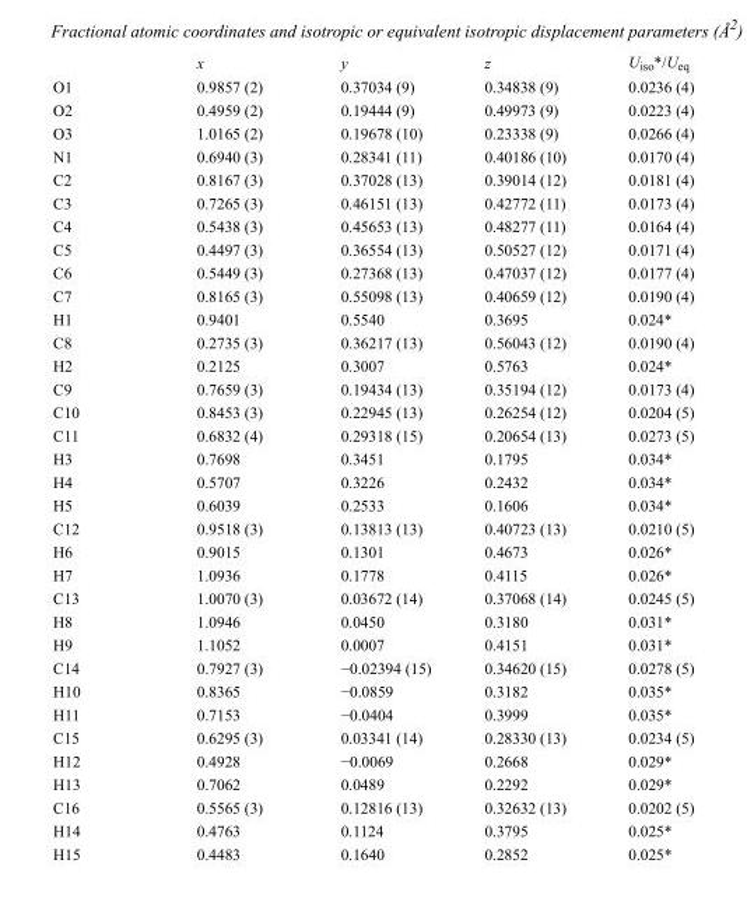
<table><thead><tr><td></td><td>x</td><td>y</td><td>z</td><td>U<sub>iso</sub>*/U<sub>eq</sub></td></tr></thead><tbody><tr><td>O1</td><td>0.9857 (2)</td><td>0.37034 (9)</td><td>0.34838 (9)</td><td>0.0236 (4)</td></tr><tr><td>O2</td><td>0.4959 (2)</td><td>0.19444 (9)</td><td>0.49973 (9)</td><td>0.0223 (4)</td></tr><tr><td>O3</td><td>1.0165 (2)</td><td>0.19678 (10)</td><td>0.23338 (9)</td><td>0.0266 (4)</td></tr><tr><td>N1</td><td>0.6940 (3)</td><td>0.28341 (11)</td><td>0.40186 (10)</td><td>0.0170 (4)</td></tr><tr><td>C2</td><td>0.8167 (3)</td><td>0.37028 (13)</td><td>0.39014 (12)</td><td>0.0181 (4)</td></tr><tr><td>C3</td><td>0.7265 (3)</td><td>0.46151 (13)</td><td>0.42772 (11)</td><td>0.0173 (4)</td></tr><tr><td>C4</td><td>0.5438 (3)</td><td>0.45653 (13)</td><td>0.48277 (11)</td><td>0.0164 (4)</td></tr><tr><td>C5</td><td>0.4497 (3)</td><td>0.36554 (13)</td><td>0.50527 (12)</td><td>0.0171 (4)</td></tr><tr><td>C6</td><td>0.5449 (3)</td><td>0.27368 (13)</td><td>0.47037 (12)</td><td>0.0177 (4)</td></tr><tr><td>C7</td><td>0.8165 (3)</td><td>0.55098 (13)</td><td>0.40659 (12)</td><td>0.0190 (4)</td></tr><tr><td>H1</td><td>0.9401</td><td>0.5540</td><td>0.3695</td><td>0.024*</td></tr><tr><td>C8</td><td>0.2735 (3)</td><td>0.36217 (13)</td><td>0.56043 (12)</td><td>0.0190 (4)</td></tr><tr><td>H2</td><td>0.2125</td><td>0.3007</td><td>0.5763</td><td>0.024*</td></tr><tr><td>C9</td><td>0.7659 (3)</td><td>0.19434 (13)</td><td>0.35194 (12)</td><td>0.0173 (4)</td></tr><tr><td>C10</td><td>0.8453 (3)</td><td>0.22945 (13)</td><td>0.26254 (12)</td><td>0.0204 (5)</td></tr><tr><td>C11</td><td>0.6832 (4)</td><td>0.29318 (15)</td><td>0.20654 (13)</td><td>0.0273 (5)</td></tr><tr><td>H3</td><td>0.7698</td><td>0.3451</td><td>0.1795</td><td>0.034*</td></tr><tr><td>H4</td><td>0.5707</td><td>0.3226</td><td>0.2432</td><td>0.034*</td></tr><tr><td>H5</td><td>0.6039</td><td>0.2533</td><td>0.1606</td><td>0.034*</td></tr><tr><td>C12</td><td>0.9518 (3)</td><td>0.13813 (13)</td><td>0.40723 (13)</td><td>0.0210 (5)</td></tr><tr><td>H6</td><td>0.9015</td><td>0.1301</td><td>0.4673</td><td>0.026*</td></tr><tr><td>H7</td><td>1.0936</td><td>0.1778</td><td>0.4115</td><td>0.026*</td></tr><tr><td>C13</td><td>1.0070 (3)</td><td>0.03672 (14)</td><td>0.37068 (14)</td><td>0.0245 (5)</td></tr><tr><td>H8</td><td>1.0946</td><td>0.0450</td><td>0.3180</td><td>0.031*</td></tr><tr><td>H9</td><td>1.1052</td><td>0.0007</td><td>0.4151</td><td>0.031*</td></tr><tr><td>C14</td><td>0.7927 (3)</td><td>−0.02394 (15)</td><td>0.34620 (15)</td><td>0.0278 (5)</td></tr><tr><td>H10</td><td>0.8365</td><td>−0.0859</td><td>0.3182</td><td>0.035*</td></tr><tr><td>H11</td><td>0.7153</td><td>−0.0404</td><td>0.3999</td><td>0.035*</td></tr><tr><td>C15</td><td>0.6295 (3)</td><td>0.03341 (14)</td><td>0.28330 (13)</td><td>0.0234 (5)</td></tr><tr><td>H12</td><td>0.4928</td><td>−0.0069</td><td>0.2668</td><td>0.029*</td></tr><tr><td>H13</td><td>0.7062</td><td>0.0489</td><td>0.2292</td><td>0.029*</td></tr><tr><td>C16</td><td>0.5565 (3)</td><td>0.12816 (13)</td><td>0.32632 (13)</td><td>0.0202 (5)</td></tr><tr><td>H14</td><td>0.4763</td><td>0.1124</td><td>0.3795</td><td>0.025*</td></tr><tr><td>H15</td><td>0.4483</td><td>0.1640</td><td>0.2852</td><td>0.025*</td></tr></tbody></table>